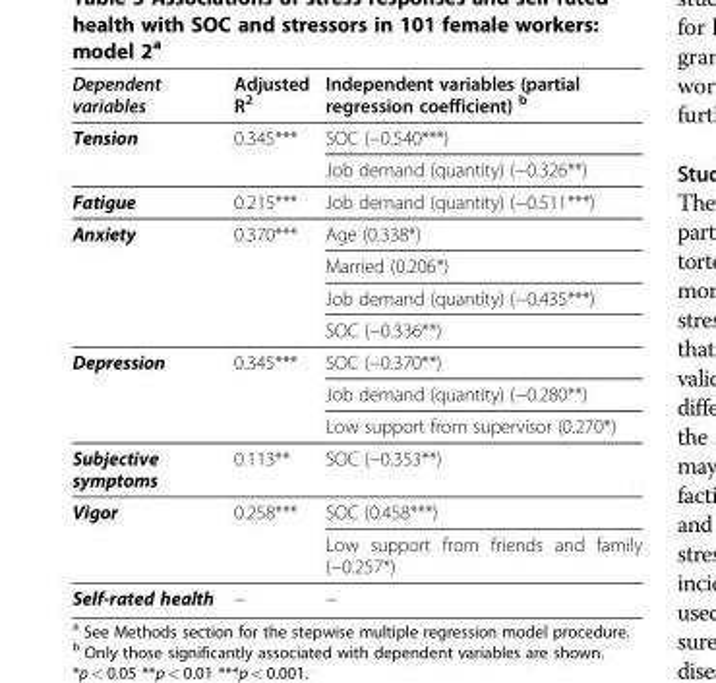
<table><thead><tr><td>Dependent variables</td><td>Adjusted R<sup>2</sup></td><td>Independent variables (partial regression coefficient) <sup>b</sup></td></tr></thead><tbody><tr><td rowspan="2">Tension</td><td rowspan="2">0.345***</td><td>SOC (−0.540***)</td></tr><tr><td>Job demand (quantity) (−0.326**)</td></tr><tr><td>Fatigue</td><td>0.215***</td><td>Job demand (quantity) (−0.511***)</td></tr><tr><td rowspan="4">Anxiety</td><td rowspan="4">0.370***</td><td>Age (0.338*)</td></tr><tr><td>Married (0.206*)</td></tr><tr><td>Job demand (quantity) (−0.435***)</td></tr><tr><td>SOC (−0.336**)</td></tr><tr><td rowspan="3">Depression</td><td rowspan="3">0.345***</td><td>SOC (−0.370**)</td></tr><tr><td>Job demand (quantity) (−0.280**)</td></tr><tr><td>Low support from supervisor (0.270*)</td></tr><tr><td>Subjective symptoms</td><td>0.113**</td><td>SOC (−0.353**)</td></tr><tr><td rowspan="2">Vigor</td><td rowspan="2">0.258***</td><td>SOC (0.458***)</td></tr><tr><td>Low support from friends and family (−0.257*)</td></tr><tr><td>Self-rated health</td><td>−</td><td>−</td></tr></tbody></table>